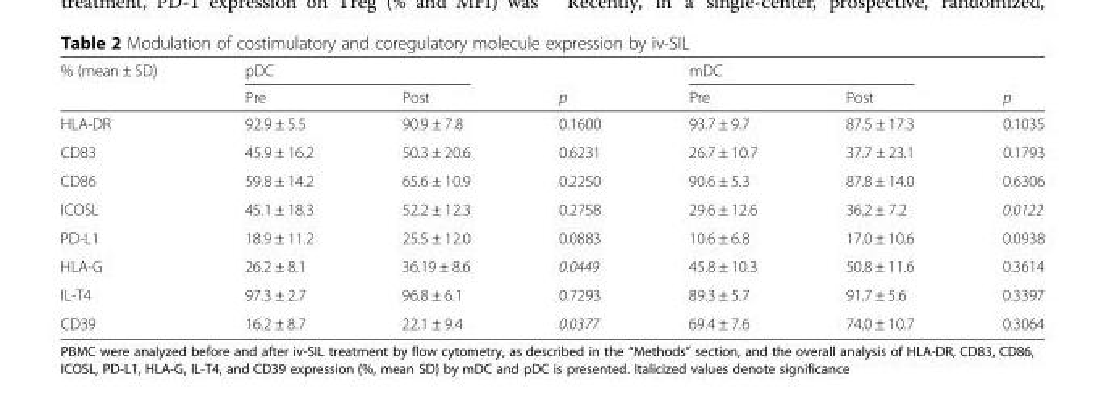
<table><thead><tr><td rowspan="2">% (mean ± SD)</td><td colspan="2">pDC</td><td rowspan="2">p</td><td colspan="2">mDC</td><td rowspan="2">p</td></tr><tr><td>Pre</td><td>Post</td><td>Pre</td><td>Post</td></tr></thead><tbody><tr><td>HLA-DR</td><td>92.9 ± 5.5</td><td>90.9 ± 7.8</td><td>0.1600</td><td>93.7 ± 9.7</td><td>87.5 ± 17.3</td><td>0.1035</td></tr><tr><td>CD83</td><td>45.9 ± 16.2</td><td>50.3 ± 20.6</td><td>0.6231</td><td>26.7 ± 10.7</td><td>37.7 ± 23.1</td><td>0.1793</td></tr><tr><td>CD86</td><td>59.8 ± 14.2</td><td>65.6 ± 10.9</td><td>0.2250</td><td>90.6 ± 5.3</td><td>87.8 ± 14.0</td><td>0.6306</td></tr><tr><td>ICOSL</td><td>45.1 ± 18.3</td><td>52.2 ± 12.3</td><td>0.2758</td><td>29.6 ± 12.6</td><td>36.2 ± 7.2</td><td>0.0122</td></tr><tr><td>PD-L1</td><td>18.9 ± 11.2</td><td>25.5 ± 12.0</td><td>0.0883</td><td>10.6 ± 6.8</td><td>17.0 ± 10.6</td><td>0.0938</td></tr><tr><td>HLA-G</td><td>26.2 ± 8.1</td><td>36.19 ± 8.6</td><td>0.0449</td><td>45.8 ± 10.3</td><td>50.8 ± 11.6</td><td>0.3614</td></tr><tr><td>IL-T4</td><td>97.3 ± 2.7</td><td>96.8 ± 6.1</td><td>0.7293</td><td>89.3 ± 5.7</td><td>91.7 ± 5.6</td><td>0.3397</td></tr><tr><td>CD39</td><td>16.2 ± 8.7</td><td>22.1 ± 9.4</td><td>0.0377</td><td>69.4 ± 7.6</td><td>74.0 ± 10.7</td><td>0.3064</td></tr></tbody></table>